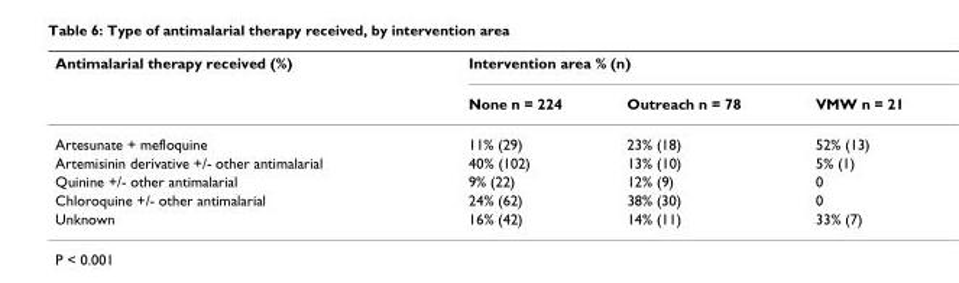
<table><thead><tr><td rowspan="2">Antimalarial therapy received (%)</td><td colspan="3">Intervention area % (n)</td></tr><tr><td>None n = 224</td><td>Outreach n = 78</td><td>VMW n = 21</td></tr></thead><tbody><tr><td>Artesunate + mefloquine</td><td>11% (29)</td><td>23% (18)</td><td>52% (13)</td></tr><tr><td>Artemisinin derivative +/- other antimalarial</td><td>40% (102)</td><td>13% (10)</td><td>5% (1)</td></tr><tr><td>Quinine +/- other antimalarial</td><td>9% (22)</td><td>12% (9)</td><td>0</td></tr><tr><td>Chloroquine +/- other antimalarial</td><td>24% (62)</td><td>38% (30)</td><td>0</td></tr><tr><td>Unknown</td><td>16% (42)</td><td>14% (11)</td><td>33% (7)</td></tr></tbody></table>